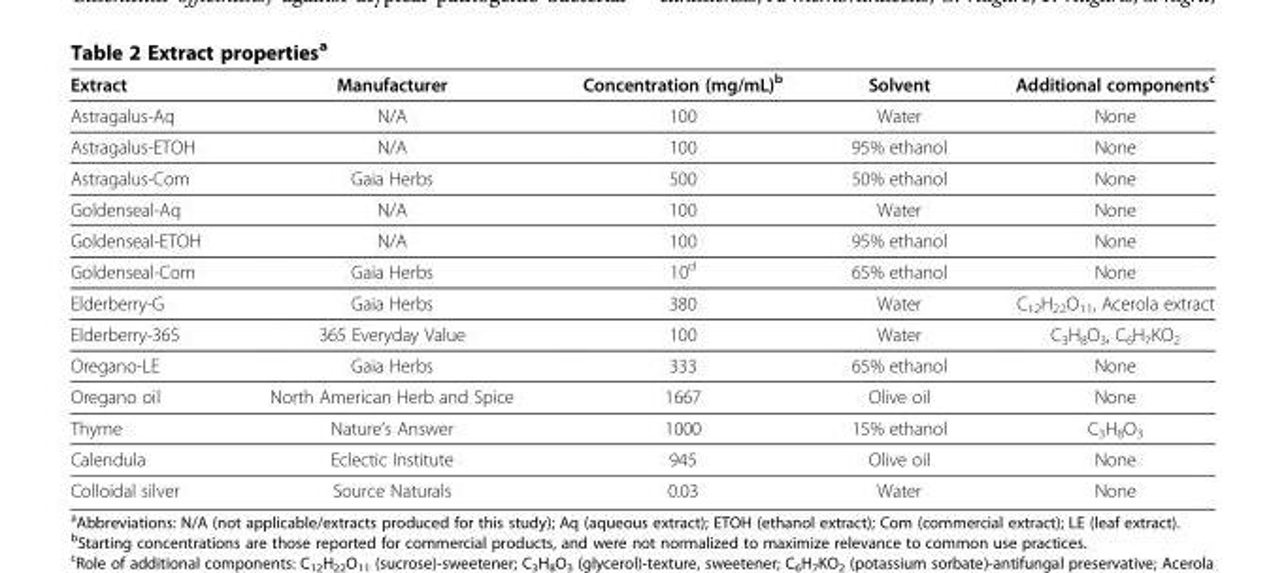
<table><thead><tr><td>Extract</td><td>Manufacturer</td><td>Concentration (mg/mL)<sup>b</sup></td><td>Solvent</td><td>Additional components<sup>c</sup></td></tr></thead><tbody><tr><td>Astragalus-Aq</td><td>N/A</td><td>100</td><td>Water</td><td>None</td></tr><tr><td>Astragalus-ETOH</td><td>N/A</td><td>100</td><td>95% ethanol</td><td>None</td></tr><tr><td>Astragalus-Com</td><td>Gaia Herbs</td><td>500</td><td>50% ethanol</td><td>None</td></tr><tr><td>Goldenseal-Aq</td><td>N/A</td><td>100</td><td>Water</td><td>None</td></tr><tr><td>Goldenseal-ETOH</td><td>N/A</td><td>100</td><td>95% ethanol</td><td>None</td></tr><tr><td>Goldenseal-Com</td><td>Gaia Herbs</td><td>10<sup>d</sup></td><td>65% ethanol</td><td>None</td></tr><tr><td>Elderberry-G</td><td>Gaia Herbs</td><td>380</td><td>Water</td><td>C<sub>12</sub>H<sub>22</sub>O<sub>11</sub>, Acerola extract</td></tr><tr><td>Elderberry-365</td><td>365 Everyday Value</td><td>100</td><td>Water</td><td>C<sub>3</sub>H<sub>8</sub>O<sub>3</sub>, C<sub>6</sub>H<sub>7</sub>KO<sub>2</sub></td></tr><tr><td>Oregano-LE</td><td>Gaia Herbs</td><td>333</td><td>65% ethanol</td><td>None</td></tr><tr><td>Oregano oil</td><td>North American Herb and Spice</td><td>1667</td><td>Olive oil</td><td>None</td></tr><tr><td>Thyme</td><td>Nature’s Answer</td><td>1000</td><td>15% ethanol</td><td>C<sub>3</sub>H<sub>8</sub>O<sub>3</sub></td></tr><tr><td>Calendula</td><td>Eclectic Institute</td><td>945</td><td>Olive oil</td><td>None</td></tr><tr><td>Colloidal silver</td><td>Source Naturals</td><td>0.03</td><td>Water</td><td>None</td></tr></tbody></table>